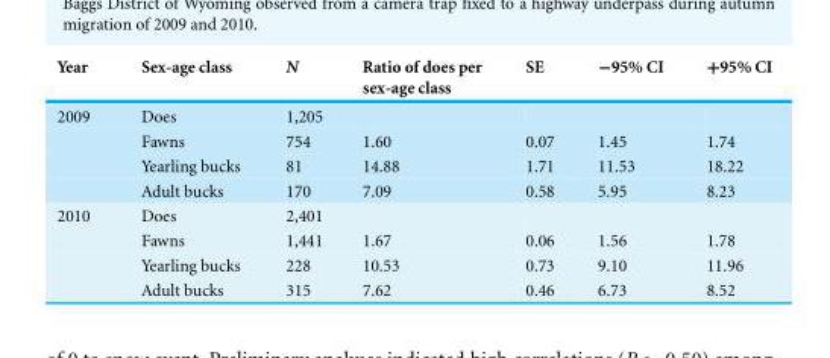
<table><thead><tr><td>Year</td><td>Sex-age class</td><td>N</td><td>Ratio of does per sex-age class</td><td>SE</td><td>−95% CI</td><td>+95% CI</td></tr></thead><tbody><tr><td rowspan="4">2009</td><td>Does</td><td>1,205</td><td></td><td></td><td></td><td></td></tr><tr><td>Fawns</td><td>754</td><td>1.60</td><td>0.07</td><td>1.45</td><td>1.74</td></tr><tr><td>Yearling bucks</td><td>81</td><td>14.88</td><td>1.71</td><td>11.53</td><td>18.22</td></tr><tr><td>Adult bucks</td><td>170</td><td>7.09</td><td>0.58</td><td>5.95</td><td>8.23</td></tr><tr><td rowspan="4">2010</td><td>Does</td><td>2,401</td><td></td><td></td><td></td><td></td></tr><tr><td>Fawns</td><td>1,441</td><td>1.67</td><td>0.06</td><td>1.56</td><td>1.78</td></tr><tr><td>Yearling bucks</td><td>228</td><td>10.53</td><td>0.73</td><td>9.10</td><td>11.96</td></tr><tr><td>Adult bucks</td><td>315</td><td>7.62</td><td>0.46</td><td>6.73</td><td>8.52</td></tr></tbody></table>